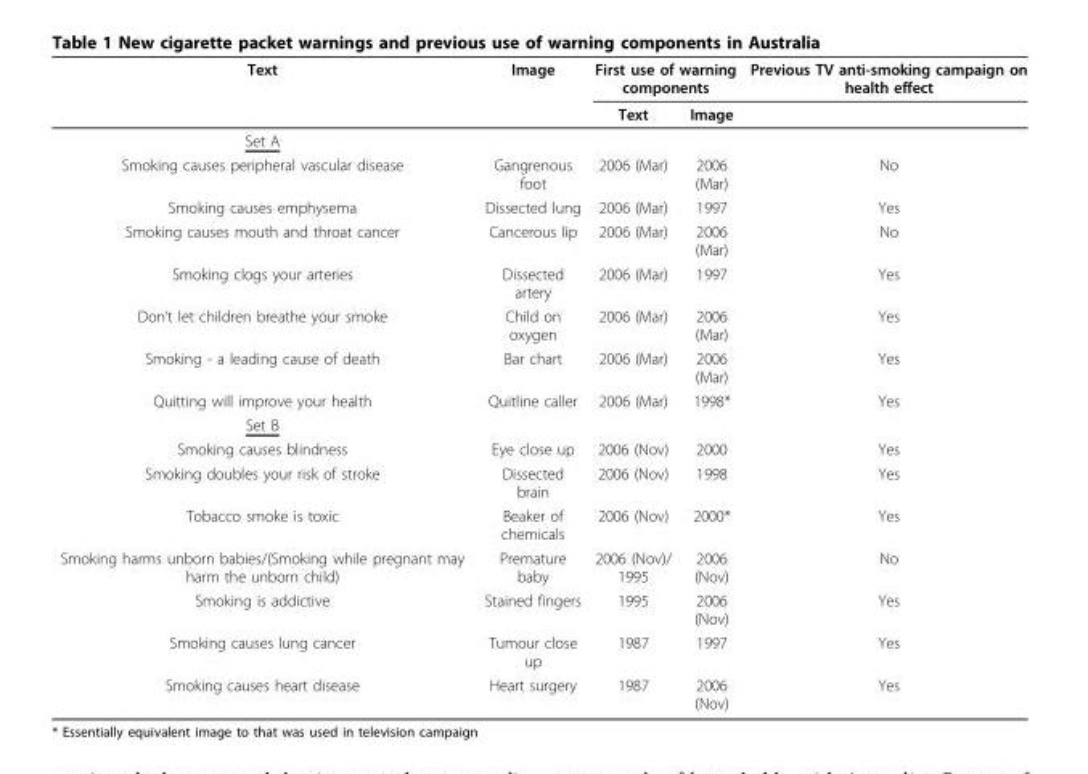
<table><thead><tr><td rowspan="2">Text</td><td rowspan="2">Image</td><td colspan="2">First use of warning components</td><td rowspan="2">Previous TV anti-smoking campaign on health effect</td></tr><tr><td>Text</td><td>Image</td></tr></thead><tbody><tr><td colspan="5">Set A</td></tr><tr><td>Smoking causes peripheral vascular disease</td><td>Gangrenous foot</td><td>2006 (Mar)</td><td>2006 (Mar)</td><td>No</td></tr><tr><td>Smoking causes emphysema</td><td>Dissected lung</td><td>2006 (Mar)</td><td>1997</td><td>Yes</td></tr><tr><td>Smoking causes mouth and throat cancer</td><td>Cancerous lip</td><td>2006 (Mar)</td><td>2006 (Mar)</td><td>No</td></tr><tr><td>Smoking clogs your arteries</td><td>Dissected artery</td><td>2006 (Mar)</td><td>1997</td><td>Yes</td></tr><tr><td>Don’t let children breathe your smoke</td><td>Child on oxygen</td><td>2006 (Mar)</td><td>2006 (Mar)</td><td>Yes</td></tr><tr><td>Smoking - a leading cause of death</td><td>Bar chart</td><td>2006 (Mar)</td><td>2006 (Mar)</td><td>Yes</td></tr><tr><td>Quitting will improve your health</td><td>Quitline caller</td><td>2006 (Mar)</td><td>1998*</td><td>Yes</td></tr><tr><td colspan="5">Set B</td></tr><tr><td>Smoking causes blindness</td><td>Eye close up</td><td>2006 (Nov)</td><td>2000</td><td>Yes</td></tr><tr><td>Smoking doubles your risk of stroke</td><td>Dissected brain</td><td>2006 (Nov)</td><td>1998</td><td>Yes</td></tr><tr><td>Tobacco smoke is toxic</td><td>Beaker of chemicals</td><td>2006 (Nov)</td><td>2000*</td><td>Yes</td></tr><tr><td>Smoking harms unborn babies/(Smoking while pregnant may harm the unborn child)</td><td>Premature baby</td><td>2006 (Nov)/ 1995</td><td>2006 (Nov)</td><td>No</td></tr><tr><td>Smoking is addictive</td><td>Stained fingers</td><td>1995</td><td>2006 (Nov)</td><td>Yes</td></tr><tr><td>Smoking causes lung cancer</td><td>Tumour close up</td><td>1987</td><td>1997</td><td>Yes</td></tr><tr><td>Smoking causes heart disease</td><td>Heart surgery</td><td>1987</td><td>2006 (Nov)</td><td>Yes</td></tr></tbody></table>